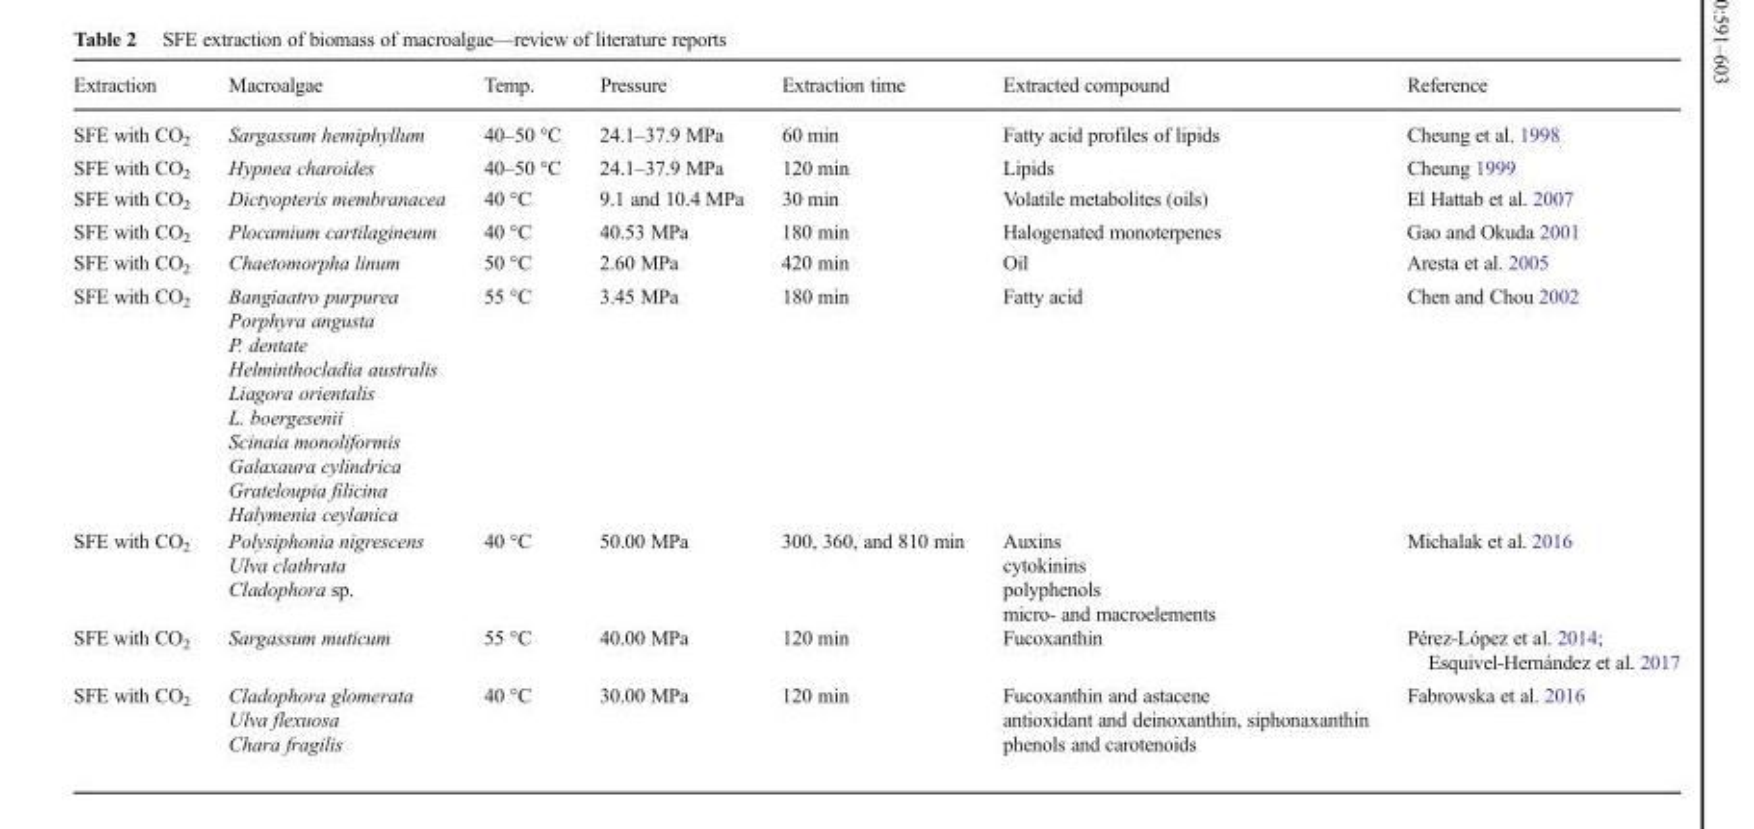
<table><thead><tr><td>Extraction</td><td>Macroalgae</td><td>Temp.</td><td>Pressure</td><td>Extraction time</td><td>Extracted compound</td><td>Reference</td></tr></thead><tbody><tr><td>SFE with CO<sub>2</sub></td><td>Sargassum hemiphyllum</td><td>40–50 °C</td><td>24.1–37.9 MPa</td><td>60 min</td><td>Fatty acid profiles of lipids</td><td>Cheung et al. 1998</td></tr><tr><td>SFE with CO<sub>2</sub></td><td>Hypnea charoides</td><td>40–50 °C</td><td>24.1–37.9 MPa</td><td>120 min</td><td>Lipids</td><td>Cheung 1999</td></tr><tr><td>SFE with CO<sub>2</sub></td><td>Dictyopteris membranacea</td><td>40 °C</td><td>9.1 and 10.4 MPa</td><td>30 min</td><td>Volatile metabolites (oils)</td><td>El Hattab et al. 2007</td></tr><tr><td>SFE with CO<sub>2</sub></td><td>Plocamium cartilagineum</td><td>40 °C</td><td>40.53 MPa</td><td>180 min</td><td>Halogenated monoterpenes</td><td>Gao and Okuda 2001</td></tr><tr><td>SFE with CO<sub>2</sub></td><td>Chaetomorpha linum</td><td>50 °C</td><td>2.60 MPa</td><td>420 min</td><td>Oil</td><td>Aresta et al. 2005</td></tr><tr><td>SFE with CO<sub>2</sub></td><td>Bangiaatro purpurea Porphyra angusta P. dentate Helminthocladia australis Liagora orientalis L. boergesenii Scinaia monoliformis Galaxaura cylindrica Grateloupia filicina Halymenia ceylanica</td><td>55 °C</td><td>3.45 MPa</td><td>180 min</td><td>Fatty acid</td><td>Chen and Chou 2002</td></tr><tr><td>SFE with CO<sub>2</sub></td><td>Polysiphonia nigrescens Ulva clathrata Cladophora sp.</td><td>40 °C</td><td>50.00 MPa</td><td>300, 360, and 810 min</td><td>Auxins cytokinins polyphenols micro- and macroelements</td><td>Michalak et al. 2016</td></tr><tr><td>SFE with CO<sub>2</sub></td><td>Sargassum muticum</td><td>55 °C</td><td>40.00 MPa</td><td>120 min</td><td>Fucoxanthin</td><td>Pérez-López et al. 2014; Esquivel-Hernández et al. 2017</td></tr><tr><td>SFE with CO<sub>2</sub></td><td>Cladophora glomerata Ulva flexuosa Chara fragilis</td><td>40 °C</td><td>30.00 MPa</td><td>120 min</td><td>Fucoxanthin and astacene antioxidant and deinoxanthin, siphonaxanthin phenols and carotenoids</td><td>Fabrowska et al. 2016</td></tr></tbody></table>